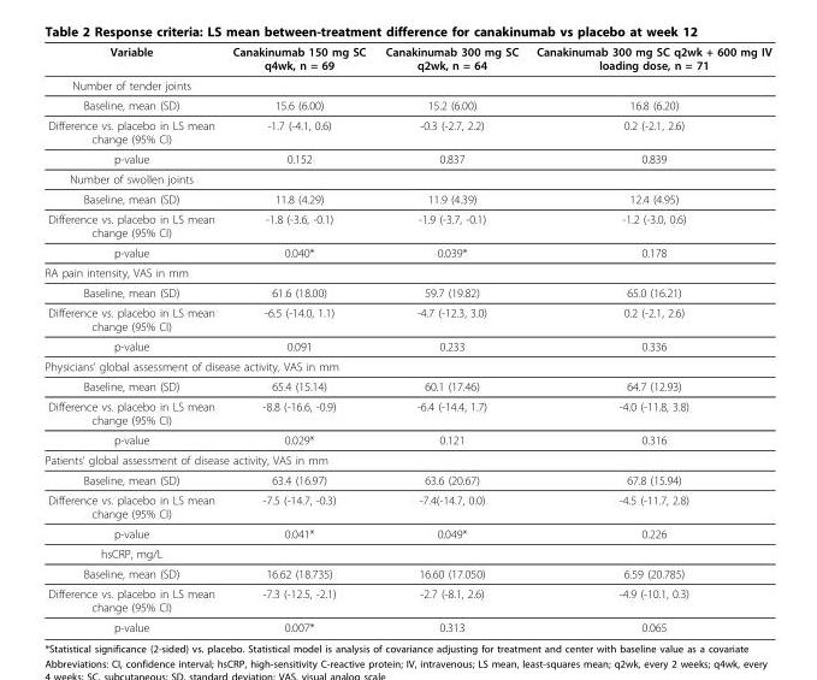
<table><thead><tr><td>Variable</td><td>Canakinumab 150 mg SC q4wk, n = 69</td><td>Canakinumab 300 mg SC q2wk, n = 64</td><td>Canakinumab 300 mg SC q2wk + 600 mg IV loading dose, n = 71</td></tr></thead><tbody><tr><td colspan="4">Number of tender joints</td></tr><tr><td>Baseline, mean (SD)</td><td>15.6 (6.00)</td><td>15.2 (6.00)</td><td>16.8 (6.20)</td></tr><tr><td>Difference vs. placebo in LS mean change (95% CI)</td><td>-1.7 (-4.1, 0.6)</td><td>-0.3 (-2.7, 2.2)</td><td>0.2 (-2.1, 2.6)</td></tr><tr><td>p-value</td><td>0.152</td><td>0.837</td><td>0.839</td></tr><tr><td colspan="4">Number of swollen joints</td></tr><tr><td>Baseline, mean (SD)</td><td>11.8 (4.29)</td><td>11.9 (4.39)</td><td>12.4 (4.95)</td></tr><tr><td>Difference vs. placebo in LS mean change (95% CI)</td><td>-1.8 (-3.6, -0.1)</td><td>-1.9 (-3.7, -0.1)</td><td>-1.2 (-3.0, 0.6)</td></tr><tr><td>p-value</td><td>0.040*</td><td>0.039*</td><td>0.178</td></tr><tr><td colspan="4">RA pain intensity, VAS in mm</td></tr><tr><td>Baseline, mean (SD)</td><td>61.6 (18.00)</td><td>59.7 (19.82)</td><td>65.0 (16.21)</td></tr><tr><td>Difference vs. placebo in LS mean change (95% CI)</td><td>-6.5 (-14.0, 1.1)</td><td>-4.7 (-12.3, 3.0)</td><td>0.2 (-2.1, 2.6)</td></tr><tr><td>p-value</td><td>0.091</td><td>0.233</td><td>0.336</td></tr><tr><td colspan="4">Physicians’ global assessment of disease activity, VAS in mm</td></tr><tr><td>Baseline, mean (SD)</td><td>65.4 (15.14)</td><td>60.1 (17.46)</td><td>64.7 (12.93)</td></tr><tr><td>Difference vs. placebo in LS mean change (95% CI)</td><td>-8.8 (-16.6, -0.9)</td><td>-6.4 (-14.4, 1.7)</td><td>-4.0 (-11.8, 3.8)</td></tr><tr><td>p-value</td><td>0.029*</td><td>0.121</td><td>0.316</td></tr><tr><td colspan="4">Patients’ global assessment of disease activity, VAS in mm</td></tr><tr><td>Baseline, mean (SD)</td><td>63.4 (16.97)</td><td>63.6 (20.67)</td><td>67.8 (15.94)</td></tr><tr><td>Difference vs. placebo in LS mean change (95% CI)</td><td>-7.5 (-14.7, -0.3)</td><td>-7.4(-14.7, 0.0)</td><td>-4.5 (-11.7, 2.8)</td></tr><tr><td>p-value</td><td>0.041*</td><td>0.049*</td><td>0.226</td></tr><tr><td colspan="4">hsCRP, mg/L</td></tr><tr><td>Baseline, mean (SD)</td><td>16.62 (18.735)</td><td>16.60 (17.050)</td><td>6.59 (20.785)</td></tr><tr><td>Difference vs. placebo in LS mean change (95% CI)</td><td>-7.3 (-12.5, -2.1)</td><td>-2.7 (-8.1, 2.6)</td><td>-4.9 (-10.1, 0.3)</td></tr><tr><td>p-value</td><td>0.007*</td><td>0.313</td><td>0.065</td></tr></tbody></table>